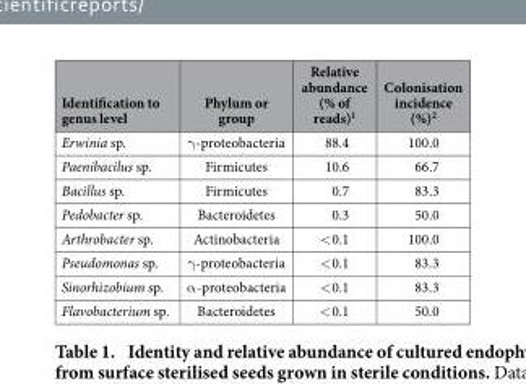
<table><thead><tr><td>Identification to genus level</td><td>Phylum or group</td><td>Relative abundance (% of reads)<sup>1</sup></td><td>Colonisation incidence (%)<sup>2</sup></td></tr></thead><tbody><tr><td>Erwinia sp.</td><td>γ -proteobacteria</td><td>88.4</td><td>100.0</td></tr><tr><td>Paenibacilus sp.</td><td>Firmicutes</td><td>10.6</td><td>66.7</td></tr><tr><td>Bacillus sp.</td><td>Firmicutes</td><td>0.7</td><td>83.3</td></tr><tr><td>Pedobacter sp.</td><td>Bacteroidetes</td><td>0.3</td><td>50.0</td></tr><tr><td>Arthrobacter sp.</td><td>Actinobacteria</td><td>&lt; 0.1</td><td>100.0</td></tr><tr><td>Pseudomonas sp.</td><td>γ -proteobacteria</td><td>&lt; 0.1</td><td>83.3</td></tr><tr><td>Sinorhizobium sp.</td><td>α -proteobacteria</td><td>&lt; 0.1</td><td>83.3</td></tr><tr><td>Flavobacterium sp.</td><td>Bacteroidetes</td><td>&lt; 0.1</td><td>50.0</td></tr></tbody></table>